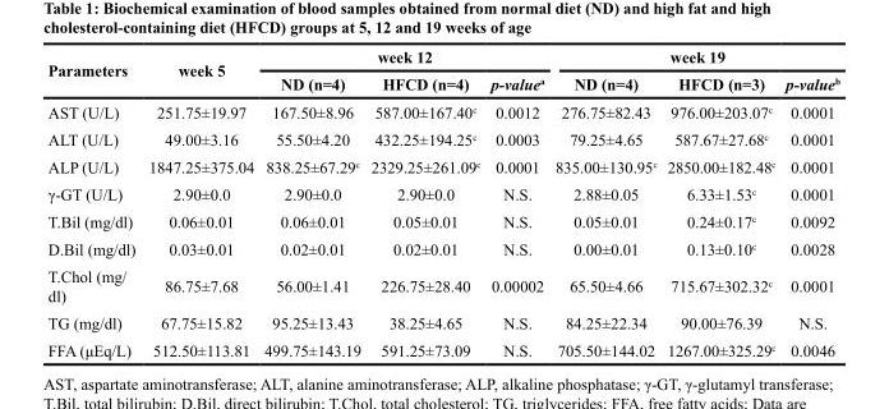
<table><thead><tr><td rowspan="2">Parameters</td><td rowspan="2">week 5</td><td colspan="3">week 12</td><td colspan="3">week 19</td></tr><tr><td>ND (n=4)</td><td>HFCD (n=4)</td><td>p-value<sup>a</sup></td><td>ND (n=4)</td><td>HFCD (n=3)</td><td>p-value<sup>b</sup></td></tr></thead><tbody><tr><td>AST (U/L)</td><td>251.75±19.97</td><td>167.50±8.96</td><td>587.00±167.40<sup>c</sup></td><td>0.0012</td><td>276.75±82.43</td><td>976.00±203.07<sup>c</sup></td><td>0.0001</td></tr><tr><td>ALT (U/L)</td><td>49.00±3.16</td><td>55.50±4.20</td><td>432.25±194.25<sup>c</sup></td><td>0.0003</td><td>79.25±4.65</td><td>587.67±27.68<sup>c</sup></td><td>0.0001</td></tr><tr><td>ALP (U/L)</td><td>1847.25±375.04</td><td>838.25±67.29<sup>c</sup></td><td>2329.25±261.09<sup>c</sup></td><td>0.0001</td><td>835.00±130.95<sup>c</sup></td><td>2850.00±182.48<sup>c</sup></td><td>0.0001</td></tr><tr><td>γ-GT (U/L)</td><td>2.90±0.0</td><td>2.90±0.0</td><td>2.90±0.0</td><td>N.S.</td><td>2.88±0.05</td><td>6.33±1.53<sup>c</sup></td><td>0.0001</td></tr><tr><td>T.Bil (mg/dl)</td><td>0.06±0.01</td><td>0.06±0.01</td><td>0.05±0.01</td><td>N.S.</td><td>0.05±0.01</td><td>0.24±0.17<sup>c</sup></td><td>0.0092</td></tr><tr><td>D.Bil (mg/dl)</td><td>0.03±0.01</td><td>0.02±0.01</td><td>0.02±0.01</td><td>N.S.</td><td>0.00±0.01</td><td>0.13±0.10<sup>c</sup></td><td>0.0028</td></tr><tr><td>T.Chol (mg/ dl)</td><td>86.75±7.68</td><td>56.00±1.41</td><td>226.75±28.40</td><td>0.00002</td><td>65.50±4.66</td><td>715.67±302.32<sup>c</sup></td><td>0.0001</td></tr><tr><td>TG (mg/dl)</td><td>67.75±15.82</td><td>95.25±13.43</td><td>38.25±4.65</td><td>N.S.</td><td>84.25±22.34</td><td>90.00±76.39</td><td>N.S.</td></tr><tr><td>FFA (μEq/L)</td><td>512.50±113.81</td><td>499.75±143.19</td><td>591.25±73.09</td><td>N.S.</td><td>705.50±144.02</td><td>1267.00±325.29<sup>c</sup></td><td>0.0046</td></tr></tbody></table>